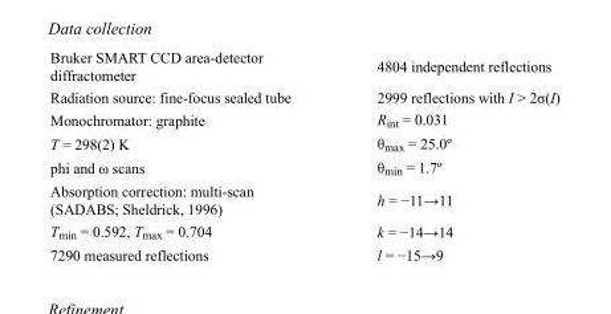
<table><tbody><tr><td>Bruker SMART CCD area-detector diffractometer</td><td>4804 independent reflections</td></tr><tr><td>Radiation source: fine-focus sealed tube</td><td>2999 reflections with I &gt; 2σ(I)</td></tr><tr><td>Monochromator: graphite</td><td>R<sub>int</sub> = 0.031</td></tr><tr><td>T = 298(2) K</td><td>θ<sub>max</sub> = 25.0º</td></tr><tr><td>phi and ω scans</td><td>θ<sub>min</sub> = 1.7º</td></tr><tr><td>Absorption correction: multi-scan (SADABS; Sheldrick, 1996)</td><td>h = −11→11</td></tr><tr><td>T<sub>min</sub> = 0.592, T<sub>max</sub> = 0.704</td><td>k = −14→14</td></tr><tr><td>7290 measured reflections</td><td>l = −15→9</td></tr></tbody></table>